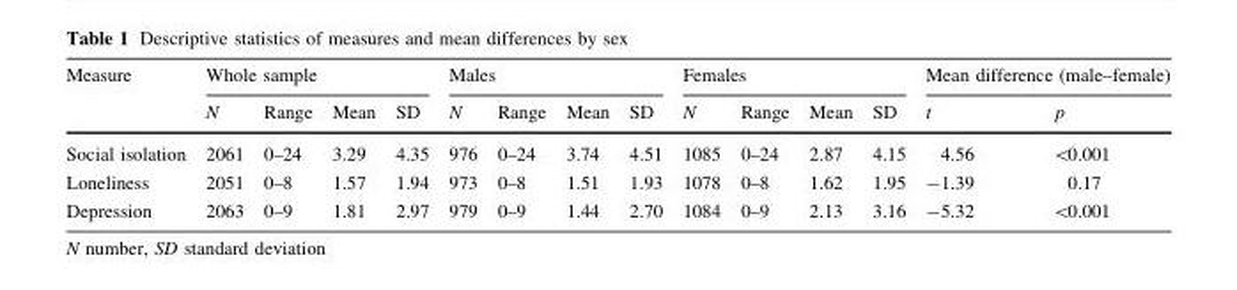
<table><thead><tr><td rowspan="2">Measure</td><td colspan="4">Whole sample</td><td colspan="4">Males</td><td colspan="4">Females</td><td colspan="2">Mean difference (male–female)</td></tr><tr><td>N</td><td>Range</td><td>Mean</td><td>SD</td><td>N</td><td>Range</td><td>Mean</td><td>SD</td><td>N</td><td>Range</td><td>Mean</td><td>SD</td><td>t</td><td>p</td></tr></thead><tbody><tr><td>Social isolation</td><td>2061</td><td>0–24</td><td>3.29</td><td>4.35</td><td>976</td><td>0–24</td><td>3.74</td><td>4.51</td><td>1085</td><td>0–24</td><td>2.87</td><td>4.15</td><td>4.56</td><td>&lt;0.001</td></tr><tr><td>Loneliness</td><td>2051</td><td>0–8</td><td>1.57</td><td>1.94</td><td>973</td><td>0–8</td><td>1.51</td><td>1.93</td><td>1078</td><td>0–8</td><td>1.62</td><td>1.95</td><td>-1.39</td><td>0.17</td></tr><tr><td>Depression</td><td>2063</td><td>0–9</td><td>1.81</td><td>2.97</td><td>979</td><td>0–9</td><td>1.44</td><td>2.70</td><td>1084</td><td>0–9</td><td>2.13</td><td>3.16</td><td>-5.32</td><td>&lt;0.001</td></tr></tbody></table>